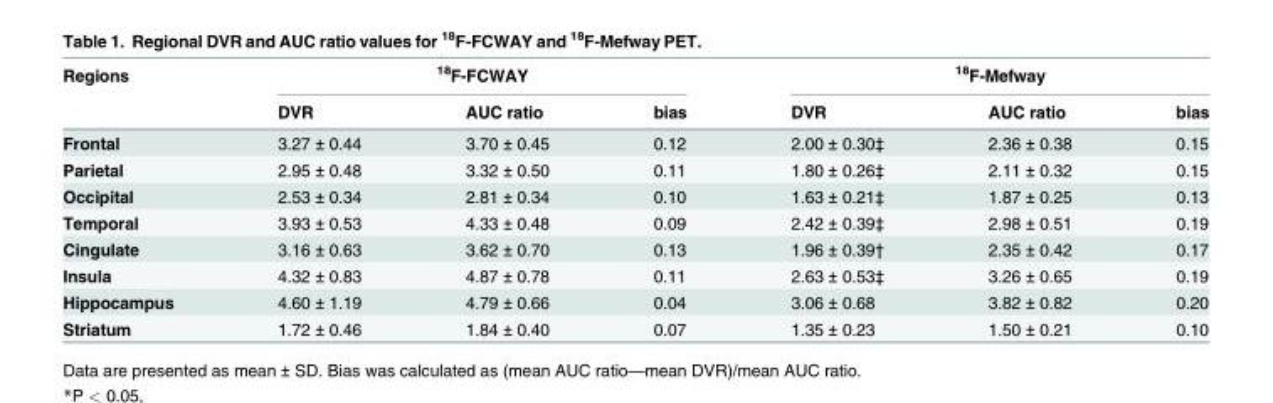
<table><thead><tr><td rowspan="2">Regions</td><td colspan="3"><sup>18</sup>F-FCWAY</td><td colspan="3"><sup>18</sup>F-Mefway</td></tr><tr><td>DVR</td><td>AUC ratio</td><td>bias</td><td>DVR</td><td>AUC ratio</td><td>bias</td></tr></thead><tbody><tr><td>Frontal</td><td>3.27 ± 0.44</td><td>3.70 ± 0.45</td><td>0.12</td><td>2.00 ± 0.30‡</td><td>2.36 ± 0.38</td><td>0.15</td></tr><tr><td>Parietal</td><td>2.95 ± 0.48</td><td>3.32 ± 0.50</td><td>0.11</td><td>1.80 ± 0.26‡</td><td>2.11 ± 0.32</td><td>0.15</td></tr><tr><td>Occipital</td><td>2.53 ± 0.34</td><td>2.81 ± 0.34</td><td>0.10</td><td>1.63 ± 0.21‡</td><td>1.87 ± 0.25</td><td>0.13</td></tr><tr><td>Temporal</td><td>3.93 ± 0.53</td><td>4.33 ± 0.48</td><td>0.09</td><td>2.42 ± 0.39‡</td><td>2.98 ± 0.51</td><td>0.19</td></tr><tr><td>Cingulate</td><td>3.16 ± 0.63</td><td>3.62 ± 0.70</td><td>0.13</td><td>1.96 ± 0.39†</td><td>2.35 ± 0.42</td><td>0.17</td></tr><tr><td>Insula</td><td>4.32 ± 0.83</td><td>4.87 ± 0.78</td><td>0.11</td><td>2.63 ± 0.53‡</td><td>3.26 ± 0.65</td><td>0.19</td></tr><tr><td>Hippocampus</td><td>4.60 ± 1.19</td><td>4.79 ± 0.66</td><td>0.04</td><td>3.06 ± 0.68</td><td>3.82 ± 0.82</td><td>0.20</td></tr><tr><td>Striatum</td><td>1.72 ± 0.46</td><td>1.84 ± 0.40</td><td>0.07</td><td>1.35 ± 0.23</td><td>1.50 ± 0.21</td><td>0.10</td></tr></tbody></table>